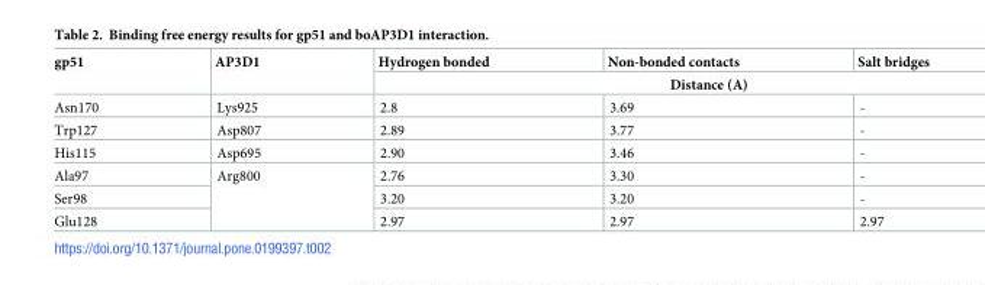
<table><thead><tr><td rowspan="2">gp51</td><td rowspan="2">AP3D1</td><td>Hydrogen bonded</td><td>Non-bonded contacts</td><td>Salt bridges</td></tr><tr><td colspan="3">Distance (A)</td></tr></thead><tbody><tr><td>Asn170</td><td>Lys925</td><td>2.8</td><td>3.69</td><td>-</td></tr><tr><td>Trp127</td><td>Asp807</td><td>2.89</td><td>3.77</td><td>-</td></tr><tr><td>His115</td><td>Asp695</td><td>2.90</td><td>3.46</td><td>-</td></tr><tr><td>Ala97</td><td rowspan="3">Arg800</td><td>2.76</td><td>3.30</td><td>-</td></tr><tr><td>Ser98</td><td>3.20</td><td>3.20</td><td>-</td></tr><tr><td>Glu128</td><td>2.97</td><td>2.97</td><td>2.97</td></tr></tbody></table>